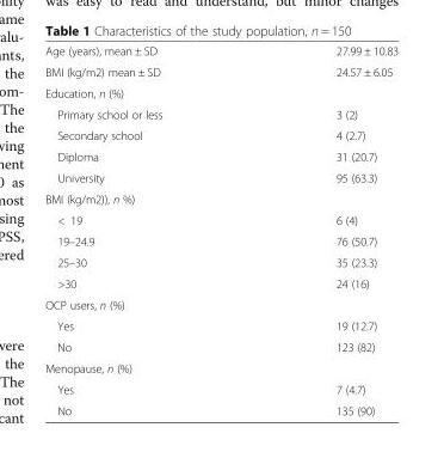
<table><tbody><tr><td>Age (years), mean ± SD</td><td>27.99 ± 10.83</td></tr><tr><td>BMI (kg/m2) mean ± SD</td><td>24.57 ± 6.05</td></tr><tr><td colspan="2">Education, n (%)</td></tr><tr><td>Primary school or less</td><td>3 (2)</td></tr><tr><td>Secondary school</td><td>4 (2.7)</td></tr><tr><td>Diploma</td><td>31 (20.7)</td></tr><tr><td>University</td><td>95 (63.3)</td></tr><tr><td colspan="2">BMI (kg/m2)), n %)</td></tr><tr><td>&lt; 19</td><td>6 (4)</td></tr><tr><td>19–24.9</td><td>76 (50.7)</td></tr><tr><td>25–30</td><td>35 (23.3)</td></tr><tr><td>&gt;30</td><td>24 (16)</td></tr><tr><td colspan="2">OCP users, n (%)</td></tr><tr><td>Yes</td><td>19 (12.7)</td></tr><tr><td>No</td><td>123 (82)</td></tr><tr><td colspan="2">Menopause, n (%)</td></tr><tr><td>Yes</td><td>7 (4.7)</td></tr><tr><td>No</td><td>135 (90)</td></tr></tbody></table>